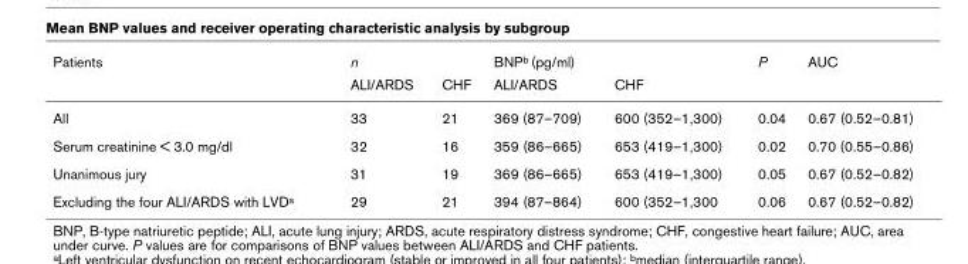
<table><thead><tr><td rowspan="2">Patients</td><td colspan="2">n</td><td colspan="2">BNP<sup>b</sup> (pg/ml)</td><td rowspan="2">P</td><td rowspan="2">AUC</td></tr><tr><td>ALI/ARDS</td><td>CHF</td><td>ALI/ARDS</td><td>CHF</td></tr></thead><tbody><tr><td>All</td><td>33</td><td>21</td><td>369 (87–709)</td><td>600 (352–1,300)</td><td>0.04</td><td>0.67 (0.52–0.81)</td></tr><tr><td>Serum creatinine &lt; 3.0 mg/dl</td><td>32</td><td>16</td><td>359 (86–665)</td><td>653 (419–1,300)</td><td>0.02</td><td>0.70 (0.55–0.86)</td></tr><tr><td>Unanimous jury</td><td>31</td><td>19</td><td>369 (86–665)</td><td>653 (419–1,300)</td><td>0.05</td><td>0.67 (0.52–0.82)</td></tr><tr><td>Excluding the four ALI/ARDS with LVD<sup>a</sup></td><td>29</td><td>21</td><td>394 (87–864)</td><td>600 (352–1,300</td><td>0.06</td><td>0.67 (0.52–0.82)</td></tr></tbody></table>